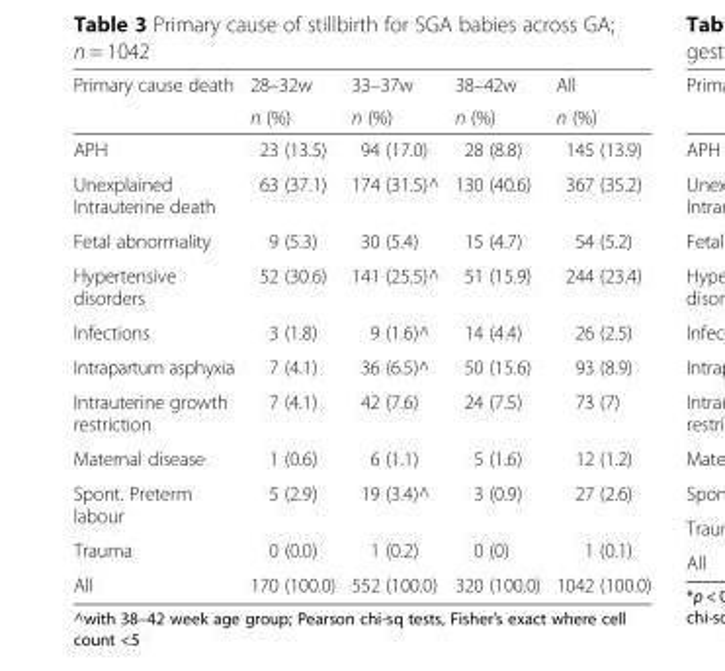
<table><thead><tr><td rowspan="2">Primary cause death</td><td rowspan="2">28–32w n (%)</td><td rowspan="2">33–37w n (%)</td><td rowspan="2">38–42w n (%)</td><td rowspan="2">All n (%)</td></tr><tr></tr></thead><tbody><tr><td>APH</td><td>23 (13.5)</td><td>94 (17.0)</td><td>28 (8.8)</td><td>145 (13.9)</td></tr><tr><td>Unexplained Intrauterine death</td><td>63 (37.1)</td><td>174 (31.5)^</td><td>130 (40.6)</td><td>367 (35.2)</td></tr><tr><td>Fetal abnormality</td><td>9 (5.3)</td><td>30 (5.4)</td><td>15 (4.7)</td><td>54 (5.2)</td></tr><tr><td>Hypertensive disorders</td><td>52 (30.6)</td><td>141 (25.5)^</td><td>51 (15.9)</td><td>244 (23.4)</td></tr><tr><td>Infections</td><td>3 (1.8)</td><td>9 (1.6)^</td><td>14 (4.4)</td><td>26 (2.5)</td></tr><tr><td>Intrapartum asphyxia</td><td>7 (4.1)</td><td>36 (6.5)^</td><td>50 (15.6)</td><td>93 (8.9)</td></tr><tr><td>Intrauterine growth restriction</td><td>7 (4.1)</td><td>42 (7.6)</td><td>24 (7.5)</td><td>73 (7)</td></tr><tr><td>Maternal disease</td><td>1 (0.6)</td><td>6 (1.1)</td><td>5 (1.6)</td><td>12 (1.2)</td></tr><tr><td>Spont. Preterm labour</td><td>5 (2.9)</td><td>19 (3.4)^</td><td>3 (0.9)</td><td>27 (2.6)</td></tr><tr><td>Trauma</td><td>0 (0.0)</td><td>1 (0.2)</td><td>0 (0)</td><td>1 (0.1)</td></tr><tr><td>All</td><td>170 (100.0)</td><td>552 (100.0)</td><td>320 (100.0)</td><td>1042 (100.0)</td></tr></tbody></table>